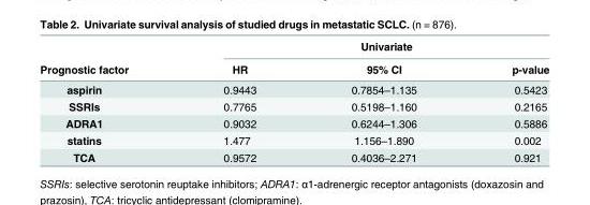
<table><thead><tr><td rowspan="2">Prognostic factor</td><td colspan="3">Univariate</td></tr><tr><td>HR</td><td>95% CI</td><td>p-value</td></tr></thead><tbody><tr><td>aspirin</td><td>0.9443</td><td>0.7854–1.135</td><td>0.5423</td></tr><tr><td>SSRIs</td><td>0.7765</td><td>0.5198–1.160</td><td>0.2165</td></tr><tr><td>ADRA1</td><td>0.9032</td><td>0.6244–1.306</td><td>0.5886</td></tr><tr><td>statins</td><td>1.477</td><td>1.156–1.890</td><td>0.002</td></tr><tr><td>TCA</td><td>0.9572</td><td>0.4036–2.271</td><td>0.921</td></tr></tbody></table>